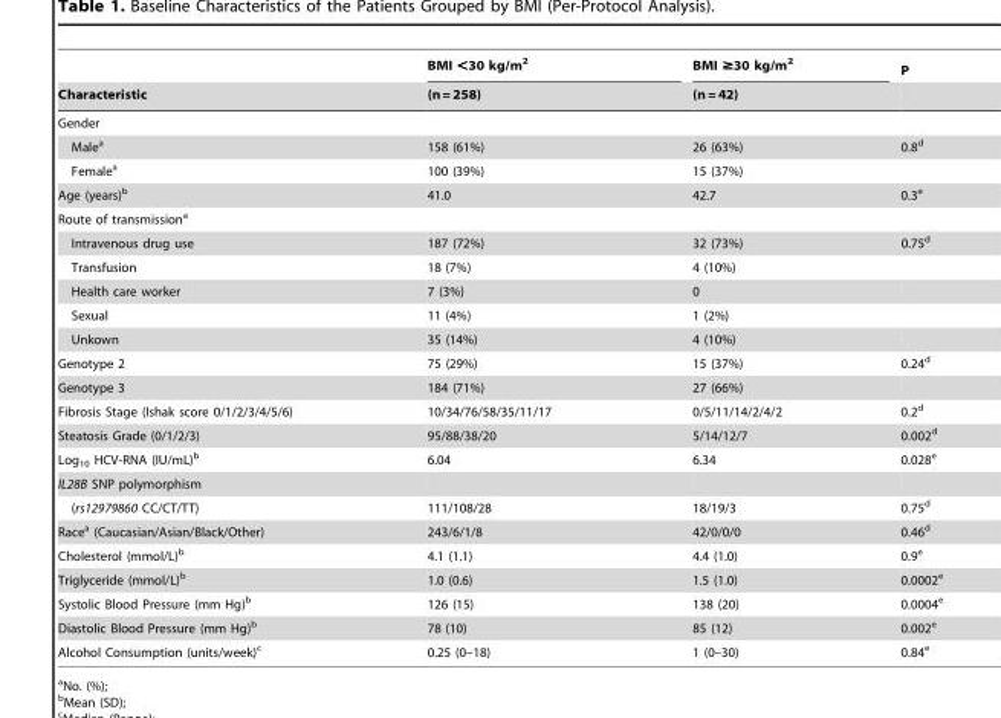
<table><thead><tr><td rowspan="2">Characteristic</td><td rowspan="2">BMI &lt;30 kg/m<sup>2</sup> (n = 258)</td><td rowspan="2">BMI ≥30 kg/m<sup>2</sup> (n = 42)</td><td rowspan="2">P</td></tr><tr></tr></thead><tbody><tr><td colspan="4">Gender</td></tr><tr><td>Male<sup>a</sup></td><td>158 (61%)</td><td>26 (63%)</td><td>0.8<sup>d</sup></td></tr><tr><td>Female<sup>a</sup></td><td>100 (39%)</td><td>15 (37%)</td><td></td></tr><tr><td>Age (years)<sup>b</sup></td><td>41.0</td><td>42.7</td><td>0.3<sup>e</sup></td></tr><tr><td colspan="4">Route of transmission<sup>a</sup></td></tr><tr><td>Intravenous drug use</td><td>187 (72%)</td><td>32 (73%)</td><td>0.75<sup>d</sup></td></tr><tr><td>Transfusion</td><td>18 (7%)</td><td>4 (10%)</td><td></td></tr><tr><td>Health care worker</td><td>7 (3%)</td><td>0</td><td></td></tr><tr><td>Sexual</td><td>11 (4%)</td><td>1 (2%)</td><td></td></tr><tr><td>Unkown</td><td>35 (14%)</td><td>4 (10%)</td><td></td></tr><tr><td>Genotype 2</td><td>75 (29%)</td><td>15 (37%)</td><td>0.24<sup>d</sup></td></tr><tr><td>Genotype 3</td><td>184 (71%)</td><td>27 (66%)</td><td></td></tr><tr><td>Fibrosis Stage (Ishak score 0/1/2/3/4/5/6)</td><td>10/34/76/58/35/11/17</td><td>0/5/11/14/2/4/2</td><td>0.2<sup>d</sup></td></tr><tr><td>Steatosis Grade (0/1/2/3)</td><td>95/88/38/20</td><td>5/14/12/7</td><td>0.002<sup>d</sup></td></tr><tr><td>Log<sub>10</sub> HCV-RNA (IU/mL)<sup>b</sup></td><td>6.04</td><td>6.34</td><td>0.028<sup>e</sup></td></tr><tr><td colspan="4">IL28B SNP polymorphism</td></tr><tr><td>(rs12979860 CC/CT/TT)</td><td>111/108/28</td><td>18/19/3</td><td>0.75<sup>d</sup></td></tr><tr><td>Race<sup>a</sup> (Caucasian/Asian/Black/Other)</td><td>243/6/1/8</td><td>42/0/0/0</td><td>0.46<sup>d</sup></td></tr><tr><td>Cholesterol (mmol/L)<sup>b</sup></td><td>4.1 (1.1)</td><td>4.4 (1.0)</td><td>0.9<sup>e</sup></td></tr><tr><td>Triglyceride (mmol/L)<sup>b</sup></td><td>1.0 (0.6)</td><td>1.5 (1.0)</td><td>0.0002<sup>e</sup></td></tr><tr><td>Systolic Blood Pressure (mm Hg)<sup>b</sup></td><td>126 (15)</td><td>138 (20)</td><td>0.0004<sup>e</sup></td></tr><tr><td>Diastolic Blood Pressure (mm Hg)<sup>b</sup></td><td>78 (10)</td><td>85 (12)</td><td>0.002<sup>e</sup></td></tr><tr><td>Alcohol Consumption (units/week)<sup>c</sup></td><td>0.25 (0–18)</td><td>1 (0–30)</td><td>0.84<sup>e</sup></td></tr></tbody></table>